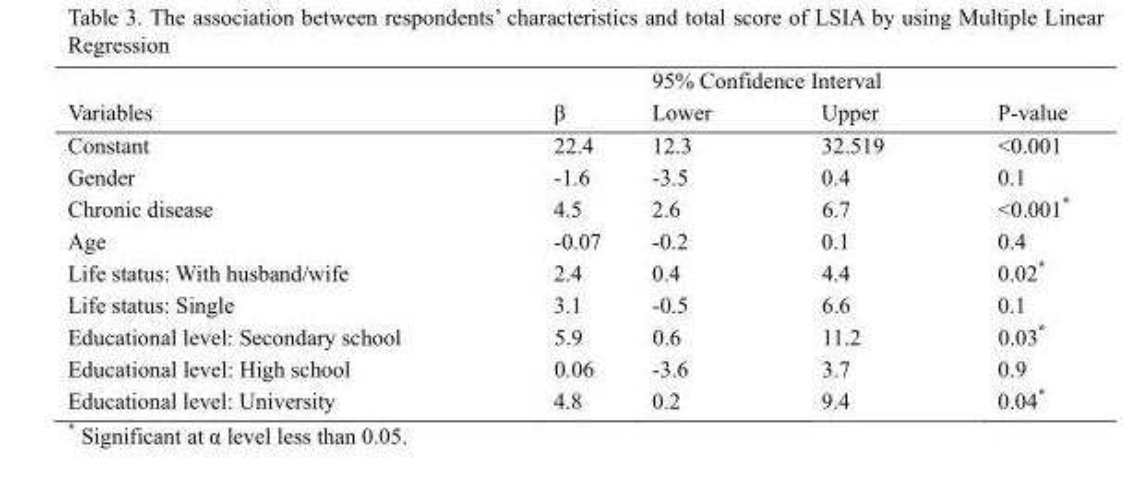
<table><thead><tr><td rowspan="2">Variables</td><td colspan="4">95% Confidence Interval</td></tr><tr><td>β</td><td>Lower</td><td>Upper</td><td>P-value</td></tr></thead><tbody><tr><td>Constant</td><td>22.4</td><td>12.3</td><td>32.519</td><td>&lt;0.001</td></tr><tr><td>Gender</td><td>-1.6</td><td>-3.5</td><td>0.4</td><td>0.1</td></tr><tr><td>Chronic disease</td><td>4.5</td><td>2.6</td><td>6.7</td><td>&lt;0.001*</td></tr><tr><td>Age</td><td>-0.07</td><td>-0.2</td><td>0.1</td><td>0.4</td></tr><tr><td>Life status: With husband/wife</td><td>2.4</td><td>0.4</td><td>4.4</td><td>0.02*</td></tr><tr><td>Life status: Single</td><td>3.1</td><td>-0.5</td><td>6.6</td><td>0.1</td></tr><tr><td>Educational level: Secondary school</td><td>5.9</td><td>0.6</td><td>11.2</td><td>0.03*</td></tr><tr><td>Educational level: High school</td><td>0.06</td><td>-3.6</td><td>3.7</td><td>0.9</td></tr><tr><td>Educational level: University</td><td>4.8</td><td>0.2</td><td>9.4</td><td>0.04*</td></tr></tbody></table>